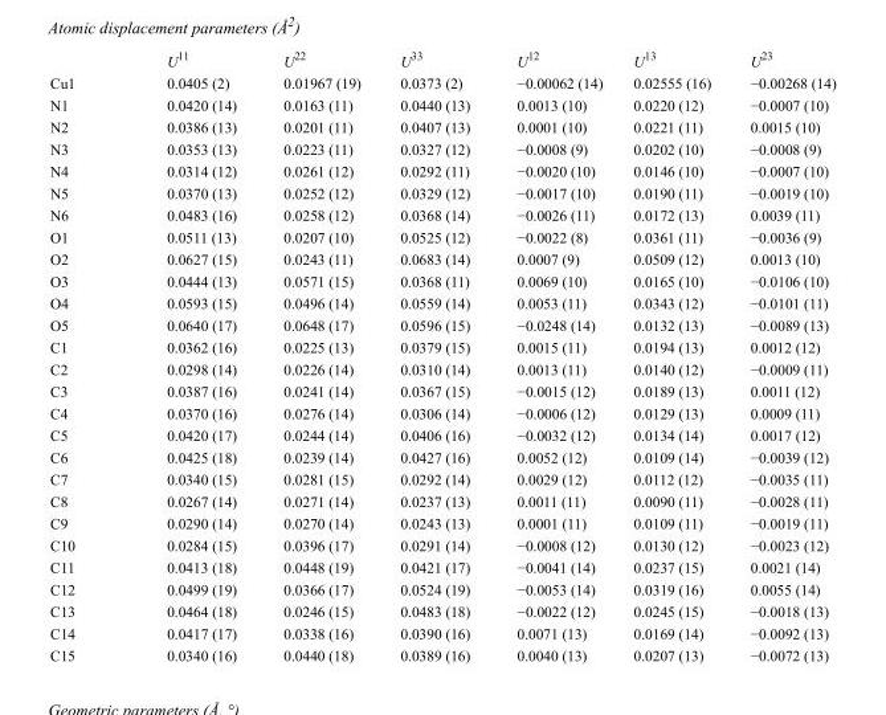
<table><thead><tr><td></td><td>U<sup>11</sup></td><td>U<sup>22</sup></td><td>U<sup>33</sup></td><td>U<sup>12</sup></td><td>U<sup>13</sup></td><td>U<sup>23</sup></td></tr></thead><tbody><tr><td>Cu1</td><td>0.0405 (2)</td><td>0.01967 (19)</td><td>0.0373 (2)</td><td>−0.00062 (14)</td><td>0.02555 (16)</td><td>−0.00268 (14)</td></tr><tr><td>N1</td><td>0.0420 (14)</td><td>0.0163 (11)</td><td>0.0440 (13)</td><td>0.0013 (10)</td><td>0.0220 (12)</td><td>−0.0007 (10)</td></tr><tr><td>N2</td><td>0.0386 (13)</td><td>0.0201 (11)</td><td>0.0407 (13)</td><td>0.0001 (10)</td><td>0.0221 (11)</td><td>0.0015 (10)</td></tr><tr><td>N3</td><td>0.0353 (13)</td><td>0.0223 (11)</td><td>0.0327 (12)</td><td>−0.0008 (9)</td><td>0.0202 (10)</td><td>−0.0008 (9)</td></tr><tr><td>N4</td><td>0.0314 (12)</td><td>0.0261 (12)</td><td>0.0292 (11)</td><td>−0.0020 (10)</td><td>0.0146 (10)</td><td>−0.0007 (10)</td></tr><tr><td>N5</td><td>0.0370 (13)</td><td>0.0252 (12)</td><td>0.0329 (12)</td><td>−0.0017 (10)</td><td>0.0190 (11)</td><td>−0.0019 (10)</td></tr><tr><td>N6</td><td>0.0483 (16)</td><td>0.0258 (12)</td><td>0.0368 (14)</td><td>−0.0026 (11)</td><td>0.0172 (13)</td><td>0.0039 (11)</td></tr><tr><td>O1</td><td>0.0511 (13)</td><td>0.0207 (10)</td><td>0.0525 (12)</td><td>−0.0022 (8)</td><td>0.0361 (11)</td><td>−0.0036 (9)</td></tr><tr><td>O2</td><td>0.0627 (15)</td><td>0.0243 (11)</td><td>0.0683 (14)</td><td>0.0007 (9)</td><td>0.0509 (12)</td><td>0.0013 (10)</td></tr><tr><td>O3</td><td>0.0444 (13)</td><td>0.0571 (15)</td><td>0.0368 (11)</td><td>0.0069 (10)</td><td>0.0165 (10)</td><td>−0.0106 (10)</td></tr><tr><td>O4</td><td>0.0593 (15)</td><td>0.0496 (14)</td><td>0.0559 (14)</td><td>0.0053 (11)</td><td>0.0343 (12)</td><td>−0.0101 (11)</td></tr><tr><td>O5</td><td>0.0640 (17)</td><td>0.0648 (17)</td><td>0.0596 (15)</td><td>−0.0248 (14)</td><td>0.0132 (13)</td><td>−0.0089 (13)</td></tr><tr><td>C1</td><td>0.0362 (16)</td><td>0.0225 (13)</td><td>0.0379 (15)</td><td>0.0015 (11)</td><td>0.0194 (13)</td><td>0.0012 (12)</td></tr><tr><td>C2</td><td>0.0298 (14)</td><td>0.0226 (14)</td><td>0.0310 (14)</td><td>0.0013 (11)</td><td>0.0140 (12)</td><td>−0.0009 (11)</td></tr><tr><td>C3</td><td>0.0387 (16)</td><td>0.0241 (14)</td><td>0.0367 (15)</td><td>−0.0015 (12)</td><td>0.0189 (13)</td><td>0.0011 (12)</td></tr><tr><td>C4</td><td>0.0370 (16)</td><td>0.0276 (14)</td><td>0.0306 (14)</td><td>−0.0006 (12)</td><td>0.0129 (13)</td><td>0.0009 (11)</td></tr><tr><td>C5</td><td>0.0420 (17)</td><td>0.0244 (14)</td><td>0.0406 (16)</td><td>−0.0032 (12)</td><td>0.0134 (14)</td><td>0.0017 (12)</td></tr><tr><td>C6</td><td>0.0425 (18)</td><td>0.0239 (14)</td><td>0.0427 (16)</td><td>0.0052 (12)</td><td>0.0109 (14)</td><td>−0.0039 (12)</td></tr><tr><td>C7</td><td>0.0340 (15)</td><td>0.0281 (15)</td><td>0.0292 (14)</td><td>0.0029 (12)</td><td>0.0112 (12)</td><td>−0.0035 (11)</td></tr><tr><td>C8</td><td>0.0267 (14)</td><td>0.0271 (14)</td><td>0.0237 (13)</td><td>0.0011 (11)</td><td>0.0090 (11)</td><td>−0.0028 (11)</td></tr><tr><td>C9</td><td>0.0290 (14)</td><td>0.0270 (14)</td><td>0.0243 (13)</td><td>0.0001 (11)</td><td>0.0109 (11)</td><td>−0.0019 (11)</td></tr><tr><td>C10</td><td>0.0284 (15)</td><td>0.0396 (17)</td><td>0.0291 (14)</td><td>−0.0008 (12)</td><td>0.0130 (12)</td><td>−0.0023 (12)</td></tr><tr><td>C11</td><td>0.0413 (18)</td><td>0.0448 (19)</td><td>0.0421 (17)</td><td>−0.0041 (14)</td><td>0.0237 (15)</td><td>0.0021 (14)</td></tr><tr><td>C12</td><td>0.0499 (19)</td><td>0.0366 (17)</td><td>0.0524 (19)</td><td>−0.0053 (14)</td><td>0.0319 (16)</td><td>0.0055 (14)</td></tr><tr><td>C13</td><td>0.0464 (18)</td><td>0.0246 (15)</td><td>0.0483 (18)</td><td>−0.0022 (12)</td><td>0.0245 (15)</td><td>−0.0018 (13)</td></tr><tr><td>C14</td><td>0.0417 (17)</td><td>0.0338 (16)</td><td>0.0390 (16)</td><td>0.0071 (13)</td><td>0.0169 (14)</td><td>−0.0092 (13)</td></tr><tr><td>C15</td><td>0.0340 (16)</td><td>0.0440 (18)</td><td>0.0389 (16)</td><td>0.0040 (13)</td><td>0.0207 (13)</td><td>−0.0072 (13)</td></tr></tbody></table>